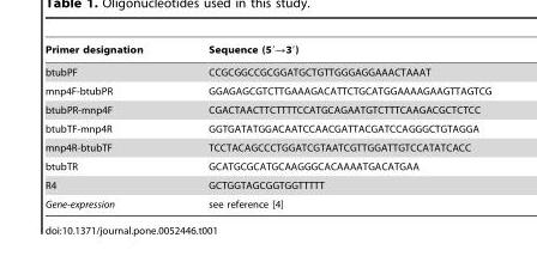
<table><thead><tr><td>Primer designation</td><td>Sequence (5′→3′)</td></tr></thead><tbody><tr><td>btubPF</td><td>CCGCGGCCGCGGATGCTGTTGGGAGGAAACTAAAT</td></tr><tr><td>mnp4F-btubPR</td><td>GGAGAGCGTCTTGAAAGACATTCTGCATGGAAAAGAAGTTAGTCG</td></tr><tr><td>btubPR-mnp4F</td><td>CGACTAACTTCTTTTCCATGCAGAATGTCTTTCAAGACGCTCTCC</td></tr><tr><td>btubTF-mnp4R</td><td>GGTGATATGGACAATCCAACGATTACGATCCAGGGCTGTAGGA</td></tr><tr><td>mnp4R-btubTF</td><td>TCCTACAGCCCTGGATCGTAATCGTTGGATTGTCCATATCACC</td></tr><tr><td>btubTR</td><td>GCATGCGCATGCAAGGGCACAAAATGACATGAA</td></tr><tr><td>R4</td><td>GCTGGTAGCGGTGGTTTTT</td></tr><tr><td>Gene-expression</td><td>see reference [4]</td></tr></tbody></table>